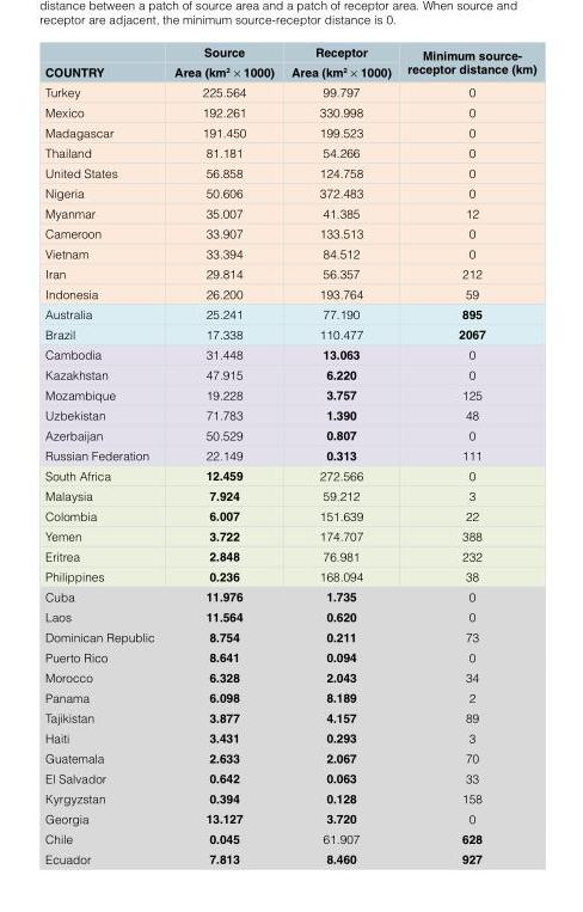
<table><thead><tr><td rowspan="2">COUNTRY</td><td rowspan="2">Source Area (km<sup>2</sup> × 1000)</td><td rowspan="2">Receptor Area (km<sup>2</sup> × 1000)</td><td rowspan="2">Minimum source- receptor distance (km)</td></tr><tr></tr></thead><tbody><tr><td>Turkey</td><td>225.564</td><td>99.797</td><td>0</td></tr><tr><td>Mexico</td><td>192.261</td><td>330.998</td><td>0</td></tr><tr><td>Madagascar</td><td>191.450</td><td>199.523</td><td>0</td></tr><tr><td>Thailand</td><td>81.181</td><td>54.266</td><td>0</td></tr><tr><td>United States</td><td>56.858</td><td>124.758</td><td>0</td></tr><tr><td>Nigeria</td><td>50.606</td><td>372.483</td><td>0</td></tr><tr><td>Myanmar</td><td>35.007</td><td>41.385</td><td>12</td></tr><tr><td>Cameroon</td><td>33.907</td><td>133.513</td><td>0</td></tr><tr><td>Vietnam</td><td>33.394</td><td>84.512</td><td>0</td></tr><tr><td>Iran</td><td>29.814</td><td>56.357</td><td>212</td></tr><tr><td>Indonesia</td><td>26.200</td><td>193.764</td><td>59</td></tr><tr><td>Australia</td><td>25.241</td><td>77.190</td><td>895</td></tr><tr><td>Brazil</td><td>17.338</td><td>110.477</td><td>2067</td></tr><tr><td>Cambodia</td><td>31.448</td><td>13.063</td><td>0</td></tr><tr><td>Kazakhstan</td><td>47.915</td><td>6.220</td><td>0</td></tr><tr><td>Mozambique</td><td>19.228</td><td>3.757</td><td>125</td></tr><tr><td>Uzbekistan</td><td>71.783</td><td>1.390</td><td>48</td></tr><tr><td>Azerbaijan</td><td>50.529</td><td>0.807</td><td>0</td></tr><tr><td>Russian Federation</td><td>22.149</td><td>0.313</td><td>111</td></tr><tr><td>South Africa</td><td>12.459</td><td>272.566</td><td>0</td></tr><tr><td>Malaysia</td><td>7.924</td><td>59.212</td><td>3</td></tr><tr><td>Colombia</td><td>6.007</td><td>151.639</td><td>22</td></tr><tr><td>Yemen</td><td>3.722</td><td>174.707</td><td>388</td></tr><tr><td>Eritrea</td><td>2.848</td><td>76.981</td><td>232</td></tr><tr><td>Philippines</td><td>0.236</td><td>168.094</td><td>38</td></tr><tr><td>Cuba</td><td>11.976</td><td>1.735</td><td>0</td></tr><tr><td>Laos</td><td>11.564</td><td>0.620</td><td>0</td></tr><tr><td>Dominican Republic</td><td>8.754</td><td>0.211</td><td>73</td></tr><tr><td>Puerto Rico</td><td>8.641</td><td>0.094</td><td>0</td></tr><tr><td>Morocco</td><td>6.328</td><td>2.043</td><td>34</td></tr><tr><td>Panama</td><td>6.098</td><td>8.189</td><td>2</td></tr><tr><td>Tajikistan</td><td>3.877</td><td>4.157</td><td>89</td></tr><tr><td>Haiti</td><td>3.431</td><td>0.293</td><td>3</td></tr><tr><td>Guatemala</td><td>2.633</td><td>2.067</td><td>70</td></tr><tr><td>El Salvador</td><td>0.642</td><td>0.063</td><td>33</td></tr><tr><td>Kyrgyzstan</td><td>0.394</td><td>0.128</td><td>158</td></tr><tr><td>Georgia</td><td>13.127</td><td>3.720</td><td>0</td></tr><tr><td>Chile</td><td>0.045</td><td>61.907</td><td>628</td></tr><tr><td>Ecuador</td><td>7.813</td><td>8.460</td><td>927</td></tr></tbody></table>